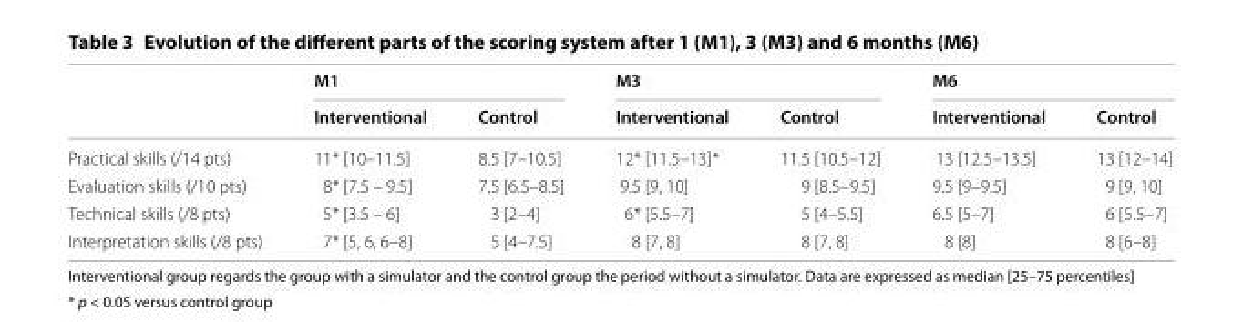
<table><thead><tr><td rowspan="2"></td><td colspan="2">M1</td><td colspan="2">M3</td><td colspan="2">M6</td></tr><tr><td>Interventional</td><td>Control</td><td>Interventional</td><td>Control</td><td>Interventional</td><td>Control</td></tr></thead><tbody><tr><td>Practical skills (/14 pts)</td><td>11* [10–11.5]</td><td>8.5 [7–10.5]</td><td>12* [11.5–13]*</td><td>11.5 [10.5–12]</td><td>13 [12.5–13.5]</td><td>13 [12–14]</td></tr><tr><td>Evaluation skills (/10 pts)</td><td>8* [7.5 – 9.5]</td><td>7.5 [6.5–8.5]</td><td>9.5 [9, 10]</td><td>9 [8.5–9.5]</td><td>9.5 [9–9.5]</td><td>9 [9, 10]</td></tr><tr><td>Technical skills (/8 pts)</td><td>5* [3.5 – 6]</td><td>3 [2–4]</td><td>6* [5.5–7]</td><td>5 [4–5.5]</td><td>6.5 [5–7]</td><td>6 [5.5–7]</td></tr><tr><td>Interpretation skills (/8 pts)</td><td>7* [5, 6, 6–8]</td><td>5 [4–7.5]</td><td>8 [7, 8]</td><td>8 [7, 8]</td><td>8 [8]</td><td>8 [6–8]</td></tr></tbody></table>